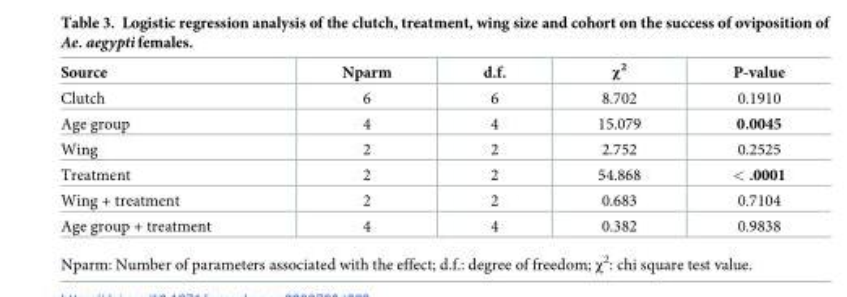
<table><thead><tr><td>Source</td><td>Nparm</td><td>d.f.</td><td>χ<sup>2</sup></td><td>P-value</td></tr></thead><tbody><tr><td>Clutch</td><td>6</td><td>6</td><td>8.702</td><td>0.1910</td></tr><tr><td>Age group</td><td>4</td><td>4</td><td>15.079</td><td>0.0045</td></tr><tr><td>Wing</td><td>2</td><td>2</td><td>2.752</td><td>0.2525</td></tr><tr><td>Treatment</td><td>2</td><td>2</td><td>54.868</td><td>&lt; .0001</td></tr><tr><td>Wing + treatment</td><td>2</td><td>2</td><td>0.683</td><td>0.7104</td></tr><tr><td>Age group + treatment</td><td>4</td><td>4</td><td>0.382</td><td>0.9838</td></tr></tbody></table>